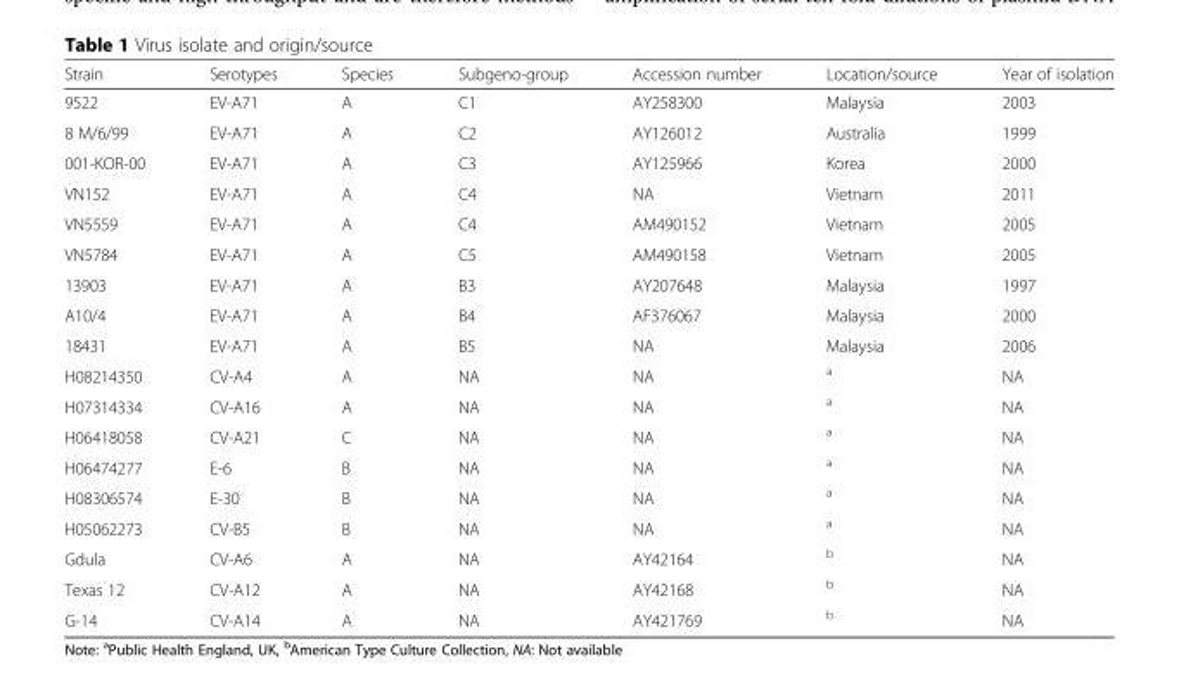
<table><thead><tr><td>Strain</td><td>Serotypes</td><td>Species</td><td>Subgeno-group</td><td>Accession number</td><td>Location/source</td><td>Year of isolation</td></tr></thead><tbody><tr><td>9522</td><td>EV-A71</td><td>A</td><td>C1</td><td>AY258300</td><td>Malaysia</td><td>2003</td></tr><tr><td>8 M/6/99</td><td>EV-A71</td><td>A</td><td>C2</td><td>AY126012</td><td>Australia</td><td>1999</td></tr><tr><td>001-KOR-00</td><td>EV-A71</td><td>A</td><td>C3</td><td>AY125966</td><td>Korea</td><td>2000</td></tr><tr><td>VN152</td><td>EV-A71</td><td>A</td><td>C4</td><td>NA</td><td>Vietnam</td><td>2011</td></tr><tr><td>VN5559</td><td>EV-A71</td><td>A</td><td>C4</td><td>AM490152</td><td>Vietnam</td><td>2005</td></tr><tr><td>VN5784</td><td>EV-A71</td><td>A</td><td>C5</td><td>AM490158</td><td>Vietnam</td><td>2005</td></tr><tr><td>13903</td><td>EV-A71</td><td>A</td><td>B3</td><td>AY207648</td><td>Malaysia</td><td>1997</td></tr><tr><td>A10/4</td><td>EV-A71</td><td>A</td><td>B4</td><td>AF376067</td><td>Malaysia</td><td>2000</td></tr><tr><td>18431</td><td>EV-A71</td><td>A</td><td>B5</td><td>NA</td><td>Malaysia</td><td>2006</td></tr><tr><td>H08214350</td><td>CV-A4</td><td>A</td><td>NA</td><td>NA</td><td><sup>a</sup></td><td>NA</td></tr><tr><td>H07314334</td><td>CV-A16</td><td>A</td><td>NA</td><td>NA</td><td><sup>a</sup></td><td>NA</td></tr><tr><td>H06418058</td><td>CV-A21</td><td>C</td><td>NA</td><td>NA</td><td><sup>a</sup></td><td>NA</td></tr><tr><td>H06474277</td><td>E-6</td><td>B</td><td>NA</td><td>NA</td><td><sup>a</sup></td><td>NA</td></tr><tr><td>H08306574</td><td>E-30</td><td>B</td><td>NA</td><td>NA</td><td><sup>a</sup></td><td>NA</td></tr><tr><td>H05062273</td><td>CV-B5</td><td>B</td><td>NA</td><td>NA</td><td><sup>a</sup></td><td>NA</td></tr><tr><td>Gdula</td><td>CV-A6</td><td>A</td><td>NA</td><td>AY42164</td><td><sup>b</sup></td><td>NA</td></tr><tr><td>Texas 12</td><td>CV-A12</td><td>A</td><td>NA</td><td>AY42168</td><td><sup>b</sup></td><td>NA</td></tr><tr><td>G-14</td><td>CV-A14</td><td>A</td><td>NA</td><td>AY421769</td><td><sup>b</sup></td><td>NA</td></tr></tbody></table>